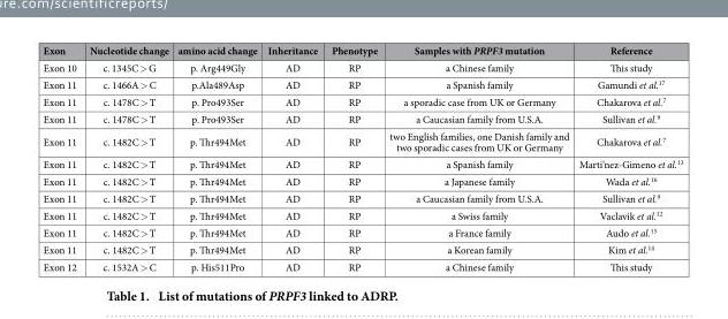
<table><thead><tr><td>Exon</td><td>Nucleotide change</td><td>amino acid change</td><td>Inheritance</td><td>Phenotype</td><td>Samples with PRPF3 mutation</td><td>Reference</td></tr></thead><tbody><tr><td>Exon 10</td><td>c. 1345C &gt; G</td><td>p. Arg449Gly</td><td>AD</td><td>RP</td><td>a Chinese family</td><td>This study</td></tr><tr><td>Exon 11</td><td>c. 1466A &gt; C</td><td>p.Ala489Asp</td><td>AD</td><td>RP</td><td>a Spanish family</td><td>Gamundi et al.<sup>17</sup></td></tr><tr><td>Exon 11</td><td>c. 1478C &gt; T</td><td>p. Pro493Ser</td><td>AD</td><td>RP</td><td>a sporadic case from UK or Germany</td><td>Chakarova et al.<sup>7</sup></td></tr><tr><td>Exon 11</td><td>c. 1478C &gt; T</td><td>p. Pro493Ser</td><td>AD</td><td>RP</td><td>a Caucasian family from U.S.A.</td><td>Sullivan et al.<sup>9</sup></td></tr><tr><td>Exon 11</td><td>c. 1482C &gt; T</td><td>p. Thr494Met</td><td>AD</td><td>RP</td><td>two English families, one Danish family and two sporadic cases from UK or Germany</td><td>Chakarova et al.<sup>7</sup></td></tr><tr><td>Exon 11</td><td>c. 1482C &gt; T</td><td>p. Thr494Met</td><td>AD</td><td>RP</td><td>a Spanish family</td><td>Marti’nez-Gimeno et al.<sup>13</sup></td></tr><tr><td>Exon 11</td><td>c. 1482C &gt; T</td><td>p. Thr494Met</td><td>AD</td><td>RP</td><td>a Japanese family</td><td>Wada et al.<sup>16</sup></td></tr><tr><td>Exon 11</td><td>c. 1482C &gt; T</td><td>p. Thr494Met</td><td>AD</td><td>RP</td><td>a Caucasian family from U.S.A.</td><td>Sullivan et al.<sup>9</sup></td></tr><tr><td>Exon 11</td><td>c. 1482C &gt; T</td><td>p. Thr494Met</td><td>AD</td><td>RP</td><td>a Swiss family</td><td>Vaclavik et al.<sup>12</sup></td></tr><tr><td>Exon 11</td><td>c. 1482C &gt; T</td><td>p. Thr494Met</td><td>AD</td><td>RP</td><td>a France family</td><td>Audo et al.<sup>15</sup></td></tr><tr><td>Exon 11</td><td>c. 1482C &gt; T</td><td>p. Thr494Met</td><td>AD</td><td>RP</td><td>a Korean family</td><td>Kim et al.<sup>14</sup></td></tr><tr><td>Exon 12</td><td>c. 1532A &gt; C</td><td>p. His511Pro</td><td>AD</td><td>RP</td><td>a Chinese family</td><td>This study</td></tr></tbody></table>